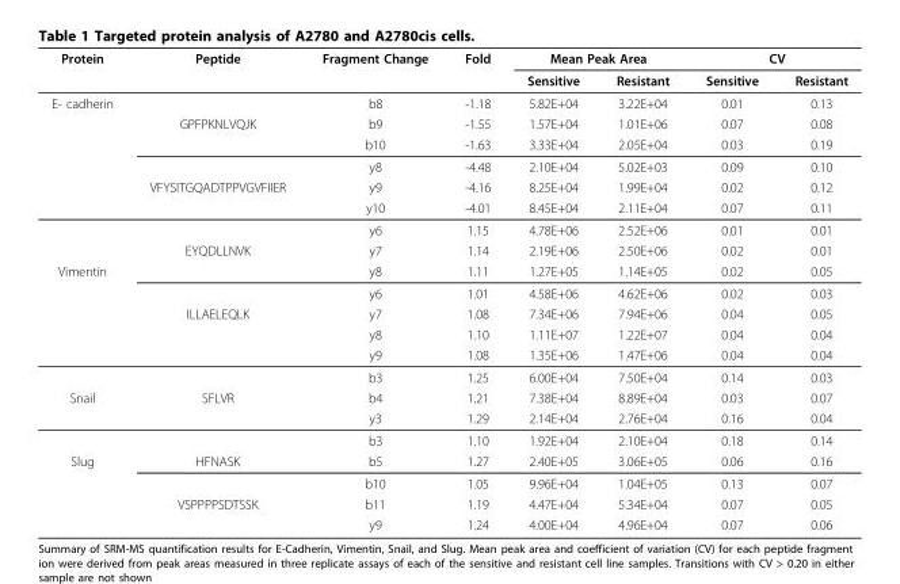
<table><thead><tr><td rowspan="2">Protein</td><td rowspan="2">Peptide</td><td rowspan="2">Fragment Change</td><td rowspan="2">Fold</td><td colspan="2">Mean Peak Area</td><td colspan="2">CV</td></tr><tr><td>Sensitive</td><td>Resistant</td><td>Sensitive</td><td>Resistant</td></tr></thead><tbody><tr><td rowspan="8">E- cadherin</td><td></td><td>b8</td><td>-1.18</td><td>5.82E+04</td><td>3.22E+04</td><td>0.01</td><td>0.13</td></tr><tr><td>GPFPKNLVQJK</td><td>b9</td><td>-1.55</td><td>1.57E+04</td><td>1.01E+06</td><td>0.07</td><td>0.08</td></tr><tr><td></td><td>b10</td><td>-1.63</td><td>3.33E+04</td><td>2.05E+04</td><td>0.03</td><td>0.19</td></tr><tr><td></td><td>y8</td><td>-4.48</td><td>2.10E+04</td><td>5.02E+03</td><td>0.09</td><td>0.10</td></tr><tr><td>VFYSITGQADTPPVGVFIIER</td><td>y9</td><td>-4.16</td><td>8.25E+04</td><td>1.99E+04</td><td>0.02</td><td>0.12</td></tr><tr><td></td><td>y10</td><td>-4.01</td><td>8.45E+04</td><td>2.11E+04</td><td>0.07</td><td>0.11</td></tr><tr><td></td><td>y6</td><td>1.15</td><td>4.78E+06</td><td>2.52E+06</td><td>0.01</td><td>0.01</td></tr><tr><td>EYQDLLNVK</td><td>y7</td><td>1.14</td><td>2.19E+06</td><td>2.50E+06</td><td>0.02</td><td>0.01</td></tr><tr><td rowspan="6">Vimentin</td><td></td><td>y8</td><td>1.11</td><td>1.27E+05</td><td>1.14E+05</td><td>0.02</td><td>0.05</td></tr><tr><td></td><td>y6</td><td>1.01</td><td>4.58E+06</td><td>4.62E+06</td><td>0.02</td><td>0.03</td></tr><tr><td>ILLAELEQLK</td><td>y7</td><td>1.08</td><td>7.34E+06</td><td>7.94E+06</td><td>0.04</td><td>0.05</td></tr><tr><td></td><td>y8</td><td>1.10</td><td>1.11E+07</td><td>1.22E+07</td><td>0.04</td><td>0.04</td></tr><tr><td></td><td>y9</td><td>1.08</td><td>1.35E+06</td><td>1.47E+06</td><td>0.04</td><td>0.04</td></tr><tr><td></td><td>b3</td><td>1.25</td><td>6.00E+04</td><td>7.50E+04</td><td>0.14</td><td>0.03</td></tr><tr><td rowspan="3">Snail</td><td>SFLVR</td><td>b4</td><td>1.21</td><td>7.38E+04</td><td>8.89E+04</td><td>0.03</td><td>0.07</td></tr><tr><td></td><td>y3</td><td>1.29</td><td>2.14E+04</td><td>2.76E+04</td><td>0.16</td><td>0.04</td></tr><tr><td></td><td>b3</td><td>1.10</td><td>1.92E+04</td><td>2.10E+04</td><td>0.18</td><td>0.14</td></tr><tr><td rowspan="4">Slug</td><td>HFNASK</td><td>b5</td><td>1.27</td><td>2.40E+05</td><td>3.06E+05</td><td>0.06</td><td>0.16</td></tr><tr><td></td><td>b10</td><td>1.05</td><td>9.96E+04</td><td>1.04E+05</td><td>0.13</td><td>0.07</td></tr><tr><td>VSPPPPSDTSSK</td><td>b11</td><td>1.19</td><td>4.47E+04</td><td>5.34E+04</td><td>0.07</td><td>0.05</td></tr><tr><td></td><td>y9</td><td>1.24</td><td>4.00E+04</td><td>4.96E+04</td><td>0.07</td><td>0.06</td></tr></tbody></table>